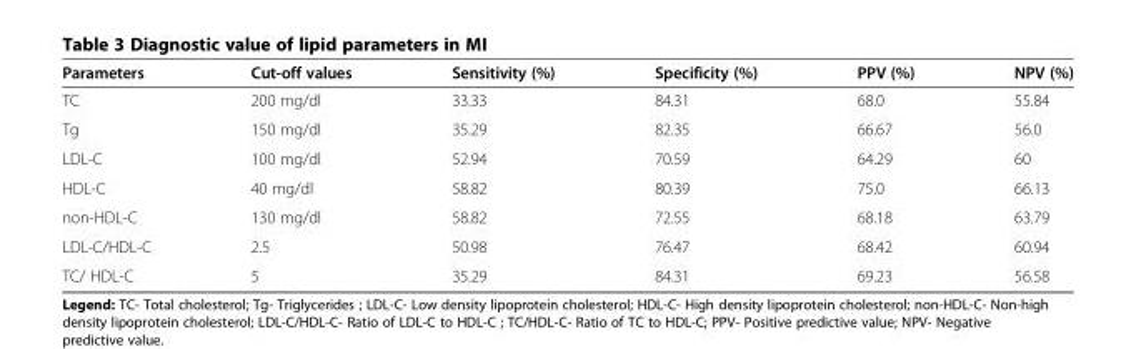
<table><thead><tr><td>Parameters</td><td>Cut-off values</td><td>Sensitivity (%)</td><td>Specificity (%)</td><td>PPV (%)</td><td>NPV (%)</td></tr></thead><tbody><tr><td>TC</td><td>200 mg/dl</td><td>33.33</td><td>84.31</td><td>68.0</td><td>55.84</td></tr><tr><td>Tg</td><td>150 mg/dl</td><td>35.29</td><td>82.35</td><td>66.67</td><td>56.0</td></tr><tr><td>LDL-C</td><td>100 mg/dl</td><td>52.94</td><td>70.59</td><td>64.29</td><td>60</td></tr><tr><td>HDL-C</td><td>40 mg/dl</td><td>58.82</td><td>80.39</td><td>75.0</td><td>66.13</td></tr><tr><td>non-HDL-C</td><td>130 mg/dl</td><td>58.82</td><td>72.55</td><td>68.18</td><td>63.79</td></tr><tr><td>LDL-C/HDL-C</td><td>2.5</td><td>50.98</td><td>76.47</td><td>68.42</td><td>60.94</td></tr><tr><td>TC/ HDL-C</td><td>5</td><td>35.29</td><td>84.31</td><td>69.23</td><td>56.58</td></tr></tbody></table>